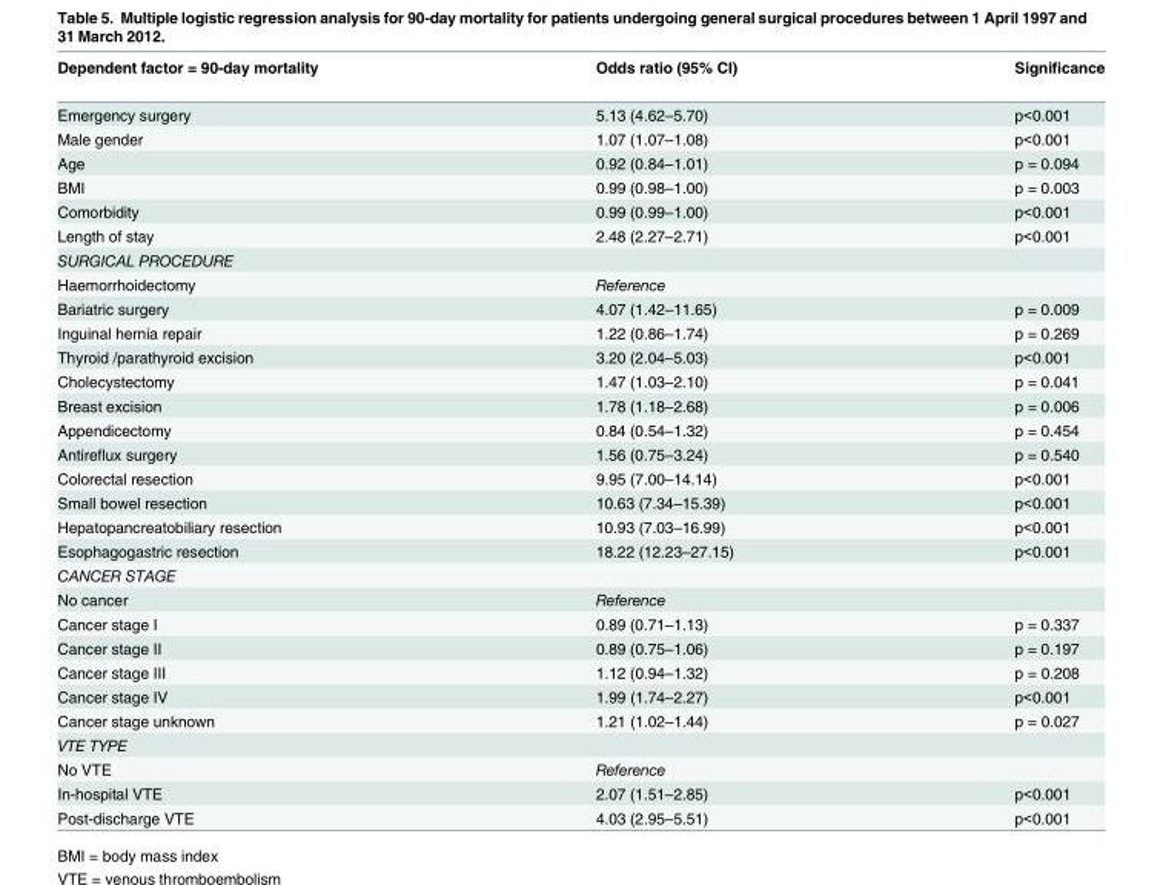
<table><thead><tr><td>Dependent factor = 90-day mortality</td><td>Odds ratio (95% CI)</td><td>Significance</td></tr></thead><tbody><tr><td>Emergency surgery</td><td>5.13 (4.62–5.70)</td><td>p&lt;0.001</td></tr><tr><td>Male gender</td><td>1.07 (1.07–1.08)</td><td>p&lt;0.001</td></tr><tr><td>Age</td><td>0.92 (0.84–1.01)</td><td>p = 0.094</td></tr><tr><td>BMI</td><td>0.99 (0.98–1.00)</td><td>p = 0.003</td></tr><tr><td>Comorbidity</td><td>0.99 (0.99–1.00)</td><td>p&lt;0.001</td></tr><tr><td>Length of stay</td><td>2.48 (2.27–2.71)</td><td>p&lt;0.001</td></tr><tr><td colspan="3">SURGICAL PROCEDURE</td></tr><tr><td>Haemorrhoidectomy</td><td>Reference</td><td></td></tr><tr><td>Bariatric surgery</td><td>4.07 (1.42–11.65)</td><td>p = 0.009</td></tr><tr><td>Inguinal hernia repair</td><td>1.22 (0.86–1.74)</td><td>p = 0.269</td></tr><tr><td>Thyroid /parathyroid excision</td><td>3.20 (2.04–5.03)</td><td>p&lt;0.001</td></tr><tr><td>Cholecystectomy</td><td>1.47 (1.03–2.10)</td><td>p = 0.041</td></tr><tr><td>Breast excision</td><td>1.78 (1.18–2.68)</td><td>p = 0.006</td></tr><tr><td>Appendicectomy</td><td>0.84 (0.54–1.32)</td><td>p = 0.454</td></tr><tr><td>Antireflux surgery</td><td>1.56 (0.75–3.24)</td><td>p = 0.540</td></tr><tr><td>Colorectal resection</td><td>9.95 (7.00–14.14)</td><td>p&lt;0.001</td></tr><tr><td>Small bowel resection</td><td>10.63 (7.34–15.39)</td><td>p&lt;0.001</td></tr><tr><td>Hepatopancreatobiliary resection</td><td>10.93 (7.03–16.99)</td><td>p&lt;0.001</td></tr><tr><td>Esophagogastric resection</td><td>18.22 (12.23–27.15)</td><td>p&lt;0.001</td></tr><tr><td colspan="3">CANCER STAGE</td></tr><tr><td>No cancer</td><td>Reference</td><td></td></tr><tr><td>Cancer stage I</td><td>0.89 (0.71–1.13)</td><td>p = 0.337</td></tr><tr><td>Cancer stage II</td><td>0.89 (0.75–1.06)</td><td>p = 0.197</td></tr><tr><td>Cancer stage III</td><td>1.12 (0.94–1.32)</td><td>p = 0.208</td></tr><tr><td>Cancer stage IV</td><td>1.99 (1.74–2.27)</td><td>p&lt;0.001</td></tr><tr><td>Cancer stage unknown</td><td>1.21 (1.02–1.44)</td><td>p = 0.027</td></tr><tr><td colspan="3">VTE TYPE</td></tr><tr><td>No VTE</td><td>Reference</td><td></td></tr><tr><td>In-hospital VTE</td><td>2.07 (1.51–2.85)</td><td>p&lt;0.001</td></tr><tr><td>Post-discharge VTE</td><td>4.03 (2.95–5.51)</td><td>p&lt;0.001</td></tr></tbody></table>